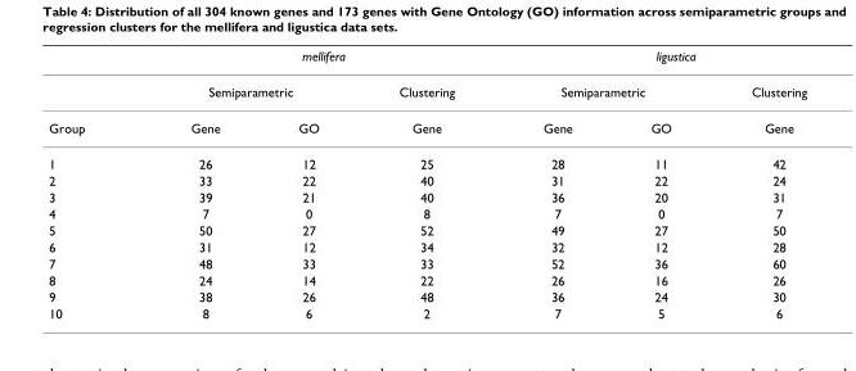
<table><thead><tr><td rowspan="3">Group</td><td colspan="3">mellifera</td><td colspan="3">ligustica</td></tr><tr><td colspan="2">Semiparametric</td><td rowspan="2">Clustering Gene</td><td colspan="2">Semiparametric</td><td rowspan="2">Clustering Gene</td></tr><tr><td>Gene</td><td>GO</td><td>Gene</td><td>GO</td></tr></thead><tbody><tr><td>1</td><td>26</td><td>12</td><td>25</td><td>28</td><td>11</td><td>42</td></tr><tr><td>2</td><td>33</td><td>22</td><td>40</td><td>31</td><td>22</td><td>24</td></tr><tr><td>3</td><td>39</td><td>21</td><td>40</td><td>36</td><td>20</td><td>31</td></tr><tr><td>4</td><td>7</td><td>0</td><td>8</td><td>7</td><td>0</td><td>7</td></tr><tr><td>5</td><td>50</td><td>27</td><td>52</td><td>49</td><td>27</td><td>50</td></tr><tr><td>6</td><td>31</td><td>12</td><td>34</td><td>32</td><td>12</td><td>28</td></tr><tr><td>7</td><td>48</td><td>33</td><td>33</td><td>52</td><td>36</td><td>60</td></tr><tr><td>8</td><td>24</td><td>14</td><td>22</td><td>26</td><td>16</td><td>26</td></tr><tr><td>9</td><td>38</td><td>26</td><td>48</td><td>36</td><td>24</td><td>30</td></tr><tr><td>10</td><td>8</td><td>6</td><td>2</td><td>7</td><td>5</td><td>6</td></tr></tbody></table>